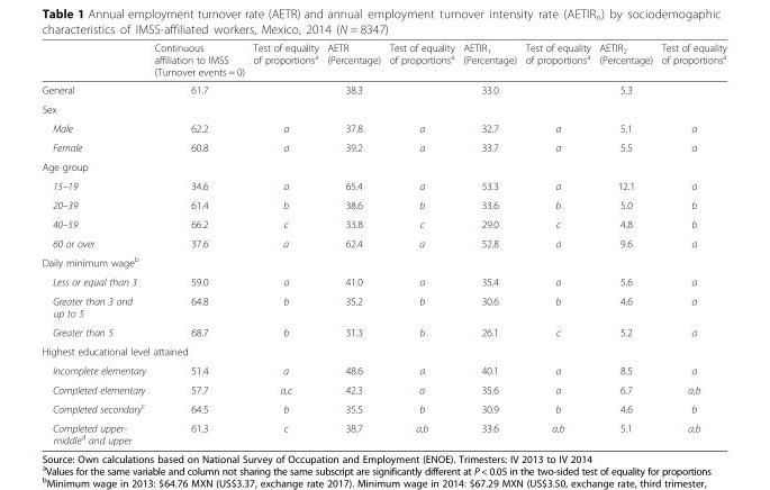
<table><thead><tr><td></td><td>Continuous affiliation to IMSS (Turnover events = 0)</td><td>Test of equality of proportions<sup>a</sup></td><td>AETR (Percentage)</td><td>Test of equality of proportions<sup>a</sup></td><td>AETIR<sub>1</sub> (Percentage)</td><td>Test of equality of proportions<sup>a</sup></td><td>AETIR<sub>2</sub> (Percentage)</td><td>Test of equality of proportions<sup>a</sup></td></tr></thead><tbody><tr><td>General</td><td>61.7</td><td></td><td>38.3</td><td></td><td>33.0</td><td></td><td>5.3</td><td></td></tr><tr><td colspan="9">Sex</td></tr><tr><td>Male</td><td>62.2</td><td>a</td><td>37.8</td><td>a</td><td>32.7</td><td>a</td><td>5.1</td><td>a</td></tr><tr><td>Female</td><td>60.8</td><td>a</td><td>39.2</td><td>a</td><td>33.7</td><td>a</td><td>5.5</td><td>a</td></tr><tr><td colspan="9">Age group</td></tr><tr><td>15–19</td><td>34.6</td><td>a</td><td>65.4</td><td>a</td><td>53.3</td><td>a</td><td>12.1</td><td>a</td></tr><tr><td>20–39</td><td>61.4</td><td>b</td><td>38.6</td><td>b</td><td>33.6</td><td>b</td><td>5.0</td><td>b</td></tr><tr><td>40–59</td><td>66.2</td><td>c</td><td>33.8</td><td>c</td><td>29.0</td><td>c</td><td>4.8</td><td>b</td></tr><tr><td>60 or over</td><td>37.6</td><td>a</td><td>62.4</td><td>a</td><td>52.8</td><td>a</td><td>9.6</td><td>a</td></tr><tr><td colspan="9">Daily minimum wage<sup>b</sup></td></tr><tr><td>Less or equal than 3</td><td>59.0</td><td>a</td><td>41.0</td><td>a</td><td>35.4</td><td>a</td><td>5.6</td><td>a</td></tr><tr><td>Greater than 3 and up to 5</td><td>64.8</td><td>b</td><td>35.2</td><td>b</td><td>30.6</td><td>b</td><td>4.6</td><td>a</td></tr><tr><td>Greater than 5</td><td>68.7</td><td>b</td><td>31.3</td><td>b</td><td>26.1</td><td>c</td><td>5.2</td><td>a</td></tr><tr><td colspan="9">Highest educational level attained</td></tr><tr><td>Incomplete elementary</td><td>51.4</td><td>a</td><td>48.6</td><td>a</td><td>40.1</td><td>a</td><td>8.5</td><td>a</td></tr><tr><td>Completed elementary</td><td>57.7</td><td>a,c</td><td>42.3</td><td>a</td><td>35.6</td><td>a</td><td>6.7</td><td>a,b</td></tr><tr><td>Completed secondary<sup>c</sup></td><td>64.5</td><td>b</td><td>35.5</td><td>b</td><td>30.9</td><td>b</td><td>4.6</td><td>b</td></tr><tr><td>Completed upper- middle<sup>d</sup> and upper</td><td>61.3</td><td>c</td><td>38.7</td><td>a,b</td><td>33.6</td><td>a,b</td><td>5.1</td><td>a,b</td></tr></tbody></table>